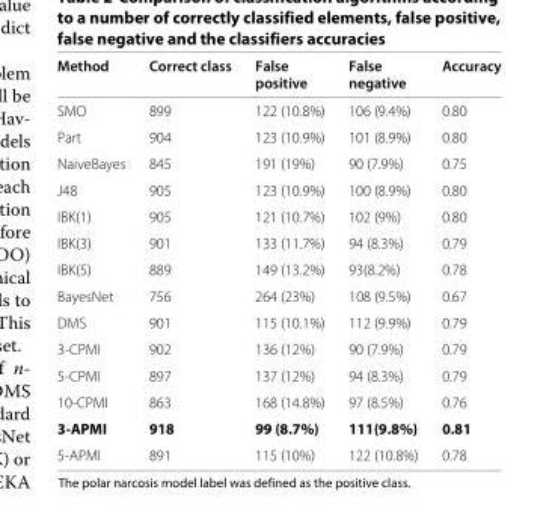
<table><thead><tr><td>Method</td><td>Correct class</td><td>False positive</td><td>False negative</td><td>Accuracy</td></tr></thead><tbody><tr><td>SMO</td><td>899</td><td>122 (10.8%)</td><td>106 (9.4%)</td><td>0.80</td></tr><tr><td>Part</td><td>904</td><td>123 (10.9%)</td><td>101 (8.9%)</td><td>0.80</td></tr><tr><td>NaiveBayes</td><td>845</td><td>191 (19%)</td><td>90 (7.9%)</td><td>0.75</td></tr><tr><td>J48</td><td>905</td><td>123 (10.9%)</td><td>100 (8.9%)</td><td>0.80</td></tr><tr><td>IBK(1)</td><td>905</td><td>121 (10.7%)</td><td>102 (9%)</td><td>0.80</td></tr><tr><td>IBK(3)</td><td>901</td><td>133 (11.7%)</td><td>94 (8.3%)</td><td>0.79</td></tr><tr><td>IBK(5)</td><td>889</td><td>149 (13.2%)</td><td>93(8.2%)</td><td>0.78</td></tr><tr><td>BayesNet</td><td>756</td><td>264 (23%)</td><td>108 (9.5%)</td><td>0.67</td></tr><tr><td>DMS</td><td>901</td><td>115 (10.1%)</td><td>112 (9.9%)</td><td>0.79</td></tr><tr><td>3-CPMI</td><td>902</td><td>136 (12%)</td><td>90 (7.9%)</td><td>0.79</td></tr><tr><td>5-CPMI</td><td>897</td><td>137 (12%)</td><td>94 (8.3%)</td><td>0.79</td></tr><tr><td>10-CPMI</td><td>863</td><td>168 (14.8%)</td><td>97 (8.5%)</td><td>0.76</td></tr><tr><td>3-APMI</td><td>918</td><td>99 (8.7%)</td><td>111(9.8%)</td><td>0.81</td></tr><tr><td>5-APMI</td><td>891</td><td>115 (10%)</td><td>122 (10.8%)</td><td>0.78</td></tr></tbody></table>